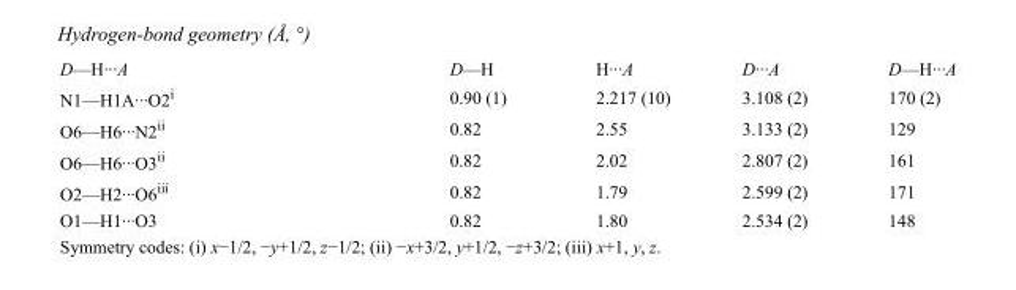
<table><tbody><tr><td>D—H···A</td><td>D—H</td><td>H···A</td><td>D···A</td><td>D—H···A</td></tr><tr><td>N1—H1A···O2<sup>i</sup></td><td>0.90 (1)</td><td>2.217 (10)</td><td>3.108 (2)</td><td>170 (2)</td></tr><tr><td>O6—H6···N2<sup>ii</sup></td><td>0.82</td><td>2.55</td><td>3.133 (2)</td><td>129</td></tr><tr><td>O6—H6···O3<sup>ii</sup></td><td>0.82</td><td>2.02</td><td>2.807 (2)</td><td>161</td></tr><tr><td>O2—H2···O6<sup>iii</sup></td><td>0.82</td><td>1.79</td><td>2.599 (2)</td><td>171</td></tr><tr><td>O1—H1···O3</td><td>0.82</td><td>1.80</td><td>2.534 (2)</td><td>148</td></tr></tbody></table>